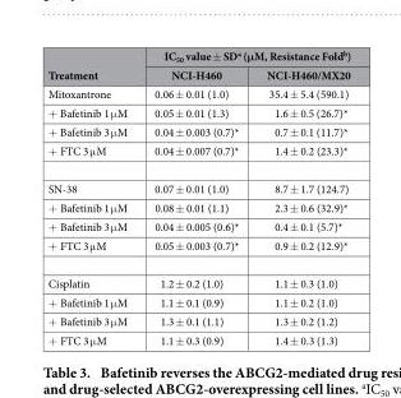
<table><thead><tr><td rowspan="2">Treatment</td><td colspan="2">IC<sub>50</sub> value ± SD<sup>a</sup> (μM, Resistance Fold<sup>b</sup>)</td></tr><tr><td>NCI-H460</td><td>NCI-H460/MX20</td></tr></thead><tbody><tr><td>Mitoxantrone</td><td>0.06 ± 0.01 (1.0)</td><td>35.4 ± 5.4 (590.1)</td></tr><tr><td>+ Bafetinib 1 μ M</td><td>0.05 ± 0.01 (1.3)</td><td>1.6 ± 0.5 (26.7)*</td></tr><tr><td>+ Bafetinib 3 μ M</td><td>0.04 ± 0.003 (0.7)*</td><td>0.7 ± 0.1 (11.7)*</td></tr><tr><td>+ FTC 3 μ M</td><td>0.04 ± 0.007 (0.7)*</td><td>1.4 ± 0.2 (23.3)*</td></tr><tr><td>SN-38</td><td>0.07 ± 0.01 (1.0)</td><td>8.7 ± 1.7 (124.7)</td></tr><tr><td>+ Bafetinib 1 μ M</td><td>0.08 ± 0.01 (1.1)</td><td>2.3 ± 0.6 (32.9)*</td></tr><tr><td>+ Bafetinib 3 μ M</td><td>0.04 ± 0.005 (0.6)*</td><td>0.4 ± 0.1 (5.7)*</td></tr><tr><td>+ FTC 3 μ M</td><td>0.05 ± 0.003 (0.7)*</td><td>0.9 ± 0.2 (12.9)*</td></tr><tr><td>Cisplatin</td><td>1.2 ± 0.2 (1.0)</td><td>1.1 ± 0.3 (1.0)</td></tr><tr><td>+ Bafetinib 1 μ M</td><td>1.1 ± 0.1 (0.9)</td><td>1.1 ± 0.2 (1.0)</td></tr><tr><td>+ Bafetinib 3 μ M</td><td>1.3 ± 0.1 (1.1)</td><td>1.3 ± 0.2 (1.2)</td></tr><tr><td>+ FTC 3 μ M</td><td>1.1 ± 0.3 (0.9)</td><td>1.4 ± 0.3 (1.3)</td></tr></tbody></table>